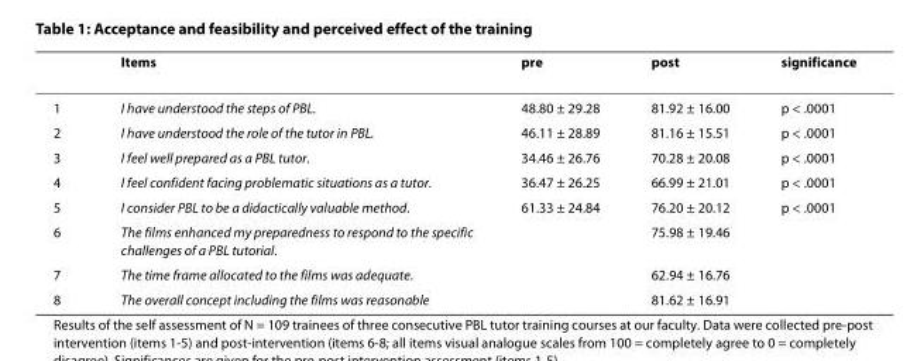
<table><thead><tr><td></td><td>Items</td><td>pre</td><td>post</td><td>significance</td></tr></thead><tbody><tr><td>1</td><td>I have understood the steps of PBL.</td><td>48.80 ± 29.28</td><td>81.92 ± 16.00</td><td>p &lt; .0001</td></tr><tr><td>2</td><td>I have understood the role of the tutor in PBL.</td><td>46.11 ± 28.89</td><td>81.16 ± 15.51</td><td>p &lt; .0001</td></tr><tr><td>3</td><td>I feel well prepared as a PBL tutor.</td><td>34.46 ± 26.76</td><td>70.28 ± 20.08</td><td>p &lt; .0001</td></tr><tr><td>4</td><td>I feel confident facing problematic situations as a tutor.</td><td>36.47 ± 26.25</td><td>66.99 ± 21.01</td><td>p &lt; .0001</td></tr><tr><td>5</td><td>I consider PBL to be a didactically valuable method.</td><td>61.33 ± 24.84</td><td>76.20 ± 20.12</td><td>p &lt; .0001</td></tr><tr><td>6</td><td>The films enhanced my preparedness to respond to the specific challenges of a PBL tutorial.</td><td></td><td>75.98 ± 19.46</td><td></td></tr><tr><td>7</td><td>The time frame allocated to the films was adequate.</td><td></td><td>62.94 ± 16.76</td><td></td></tr><tr><td>8</td><td>The overall concept including the films was reasonable</td><td></td><td>81.62 ± 16.91</td><td></td></tr></tbody></table>